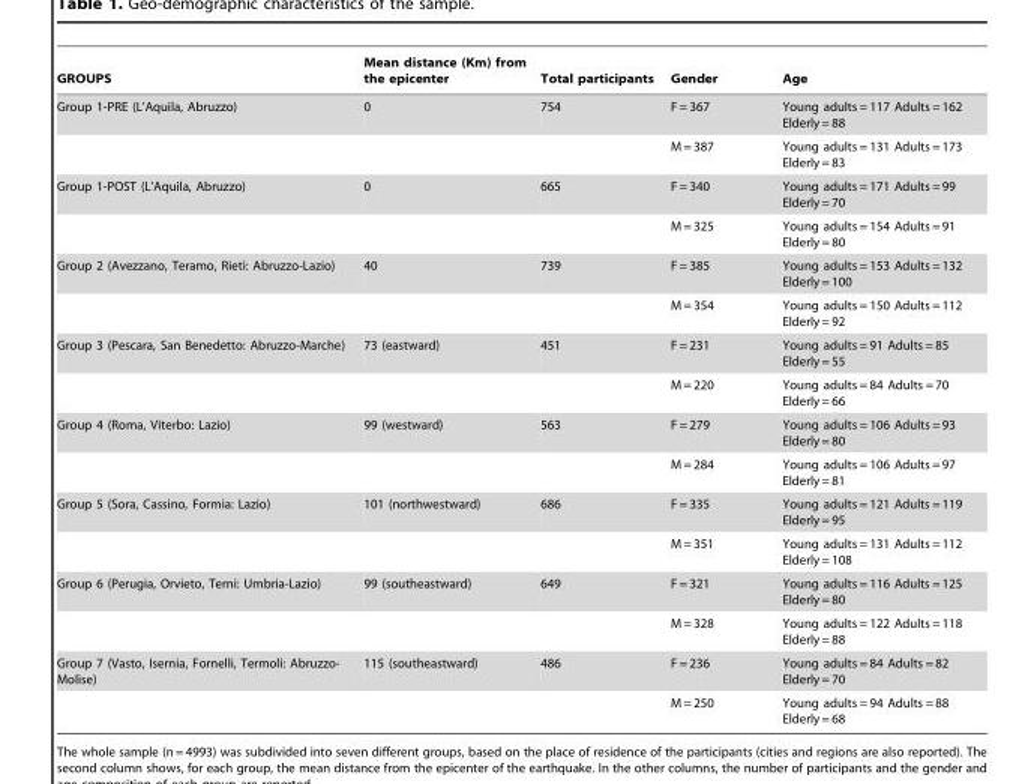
<table><thead><tr><td>GROUPS</td><td>Mean distance (Km) from the epicenter</td><td>Total participants</td><td>Gender</td><td>Age</td></tr></thead><tbody><tr><td rowspan="2">Group 1-PRE (L’Aquila, Abruzzo)</td><td>0</td><td>754</td><td>F = 367</td><td>Young adults = 117 Adults = 162 Elderly = 88</td></tr><tr><td></td><td></td><td>M = 387</td><td>Young adults = 131 Adults = 173 Elderly = 83</td></tr><tr><td rowspan="2">Group 1-POST (L’Aquila, Abruzzo)</td><td>0</td><td>665</td><td>F = 340</td><td>Young adults = 171 Adults = 99 Elderly = 70</td></tr><tr><td></td><td></td><td>M = 325</td><td>Young adults = 154 Adults = 91 Elderly = 80</td></tr><tr><td rowspan="2">Group 2 (Avezzano, Teramo, Rieti: Abruzzo-Lazio)</td><td>40</td><td>739</td><td>F = 385</td><td>Young adults = 153 Adults = 132 Elderly = 100</td></tr><tr><td></td><td></td><td>M = 354</td><td>Young adults = 150 Adults = 112 Elderly = 92</td></tr><tr><td rowspan="2">Group 3 (Pescara, San Benedetto: Abruzzo-Marche)</td><td>73 (eastward)</td><td>451</td><td>F = 231</td><td>Young adults = 91 Adults = 85 Elderly = 55</td></tr><tr><td></td><td></td><td>M = 220</td><td>Young adults = 84 Adults = 70 Elderly = 66</td></tr><tr><td rowspan="2">Group 4 (Roma, Viterbo: Lazio)</td><td>99 (westward)</td><td>563</td><td>F = 279</td><td>Young adults = 106 Adults = 93 Elderly = 80</td></tr><tr><td></td><td></td><td>M = 284</td><td>Young adults = 106 Adults = 97 Elderly = 81</td></tr><tr><td rowspan="2">Group 5 (Sora, Cassino, Formia: Lazio)</td><td>101 (northwestward)</td><td>686</td><td>F = 335</td><td>Young adults = 121 Adults = 119 Elderly = 95</td></tr><tr><td></td><td></td><td>M = 351</td><td>Young adults = 131 Adults = 112 Elderly = 108</td></tr><tr><td rowspan="2">Group 6 (Perugia, Orvieto, Terni: Umbria-Lazio)</td><td>99 (southeastward)</td><td>649</td><td>F = 321</td><td>Young adults = 116 Adults = 125 Elderly = 80</td></tr><tr><td></td><td></td><td>M = 328</td><td>Young adults = 122 Adults = 118 Elderly = 88</td></tr><tr><td rowspan="2">Group 7 (Vasto, Isernia, Fornelli, Termoli: Abruzzo- Molise)</td><td>115 (southeastward)</td><td>486</td><td>F = 236</td><td>Young adults = 84 Adults = 82 Elderly = 70</td></tr><tr><td></td><td></td><td>M = 250</td><td>Young adults = 94 Adults = 88 Elderly = 68</td></tr></tbody></table>